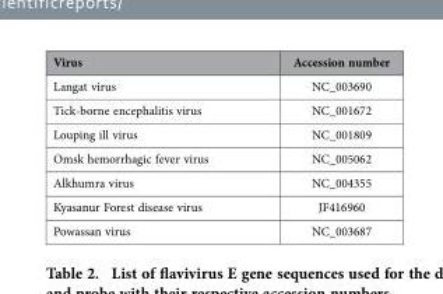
<table><thead><tr><td>Virus</td><td>Accession number</td></tr></thead><tbody><tr><td>Langat virus</td><td>NC_003690</td></tr><tr><td>Tick-borne encephalitis virus</td><td>NC_001672</td></tr><tr><td>Louping ill virus</td><td>NC_001809</td></tr><tr><td>Omsk hemorrhagic fever virus</td><td>NC_005062</td></tr><tr><td>Alkhumra virus</td><td>NC_004355</td></tr><tr><td>Kyasanur Forest disease virus</td><td>JF416960</td></tr><tr><td>Powassan virus</td><td>NC_003687</td></tr></tbody></table>